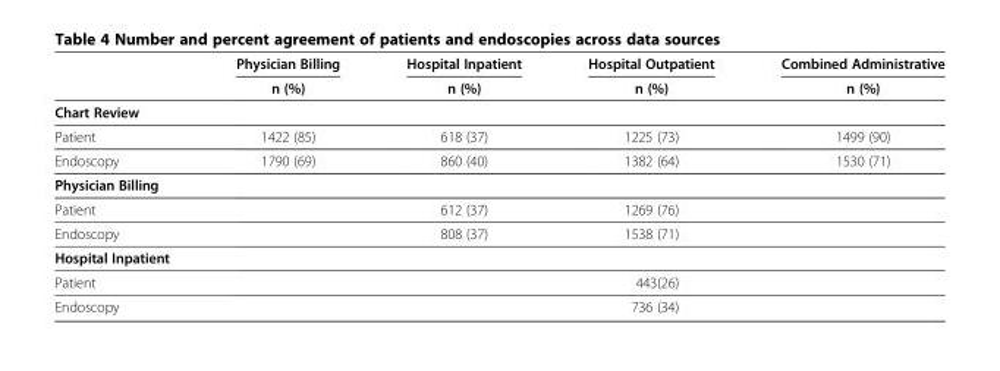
<table><thead><tr><td rowspan="2"></td><td rowspan="2">Physician Billing n (%)</td><td rowspan="2">Hospital Inpatient n (%)</td><td rowspan="2">Hospital Outpatient n (%)</td><td rowspan="2">Combined Administrative n (%)</td></tr><tr></tr></thead><tbody><tr><td colspan="5">Chart Review</td></tr><tr><td>Patient</td><td>1422 (85)</td><td>618 (37)</td><td>1225 (73)</td><td>1499 (90)</td></tr><tr><td>Endoscopy</td><td>1790 (69)</td><td>860 (40)</td><td>1382 (64)</td><td>1530 (71)</td></tr><tr><td colspan="5">Physician Billing</td></tr><tr><td>Patient</td><td></td><td>612 (37)</td><td>1269 (76)</td><td></td></tr><tr><td>Endoscopy</td><td></td><td>808 (37)</td><td>1538 (71)</td><td></td></tr><tr><td colspan="5">Hospital Inpatient</td></tr><tr><td>Patient</td><td></td><td></td><td>443(26)</td><td></td></tr><tr><td>Endoscopy</td><td></td><td></td><td>736 (34)</td><td></td></tr></tbody></table>